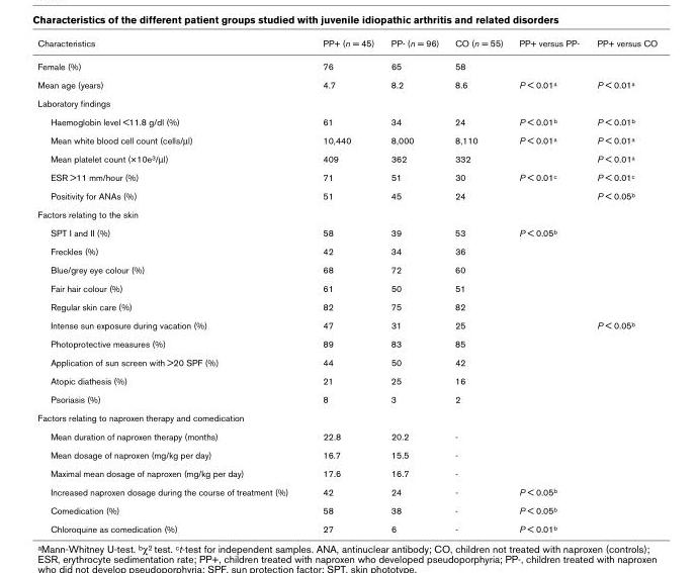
<table><thead><tr><td>Characteristics</td><td>PP+ (n = 45)</td><td>PP- (n = 96)</td><td>CO (n = 55)</td><td>PP+ versus PP-</td><td>PP+ versus CO</td></tr></thead><tbody><tr><td>Female (%)</td><td>76</td><td>65</td><td>58</td><td></td><td></td></tr><tr><td>Mean age (years)</td><td>4.7</td><td>8.2</td><td>8.6</td><td>P &lt; 0.01a</td><td>P &lt; 0.01a</td></tr><tr><td colspan="6">Laboratory findings</td></tr><tr><td>Haemoglobin level &lt;11.8 g/dl (%)</td><td>61</td><td>34</td><td>24</td><td>P &lt; 0.01b</td><td>P &lt; 0.01b</td></tr><tr><td>Mean white blood cell count (cells/μl)</td><td>10,440</td><td>8,000</td><td>8,110</td><td>P &lt; 0.01a</td><td>P &lt; 0.01a</td></tr><tr><td>Mean platelet count (×10e3/μl)</td><td>409</td><td>362</td><td>332</td><td></td><td>P &lt; 0.01a</td></tr><tr><td>ESR &gt;11 mm/hour (%)</td><td>71</td><td>51</td><td>30</td><td>P &lt; 0.01c</td><td>P &lt; 0.01c</td></tr><tr><td>Positivity for ANAs (%)</td><td>51</td><td>45</td><td>24</td><td></td><td>P &lt; 0.05b</td></tr><tr><td colspan="6">Factors relating to the skin</td></tr><tr><td>SPT I and II (%)</td><td>58</td><td>39</td><td>53</td><td>P &lt; 0.05b</td><td></td></tr><tr><td>Freckles (%)</td><td>42</td><td>34</td><td>36</td><td></td><td></td></tr><tr><td>Blue/grey eye colour (%)</td><td>68</td><td>72</td><td>60</td><td></td><td></td></tr><tr><td>Fair hair colour (%)</td><td>61</td><td>50</td><td>51</td><td></td><td></td></tr><tr><td>Regular skin care (%)</td><td>82</td><td>75</td><td>82</td><td></td><td></td></tr><tr><td>Intense sun exposure during vacation (%)</td><td>47</td><td>31</td><td>25</td><td></td><td>P &lt; 0.05b</td></tr><tr><td>Photoprotective measures (%)</td><td>89</td><td>83</td><td>85</td><td></td><td></td></tr><tr><td>Application of sun screen with &gt;20 SPF (%)</td><td>44</td><td>50</td><td>42</td><td></td><td></td></tr><tr><td>Atopic diathesis (%)</td><td>21</td><td>25</td><td>16</td><td></td><td></td></tr><tr><td>Psoriasis (%)</td><td>8</td><td>3</td><td>2</td><td></td><td></td></tr><tr><td colspan="6">Factors relating to naproxen therapy and comedication</td></tr><tr><td>Mean duration of naproxen therapy (months)</td><td>22.8</td><td>20.2</td><td>-</td><td></td><td></td></tr><tr><td>Mean dosage of naproxen (mg/kg per day)</td><td>16.7</td><td>15.5</td><td>-</td><td></td><td></td></tr><tr><td>Maximal mean dosage of naproxen (mg/kg per day)</td><td>17.6</td><td>16.7</td><td>-</td><td></td><td></td></tr><tr><td>Increased naproxen dosage during the course of treatment (%)</td><td>42</td><td>24</td><td>-</td><td>P &lt; 0.05b</td><td></td></tr><tr><td>Comedication (%)</td><td>58</td><td>38</td><td>-</td><td>P &lt; 0.05b</td><td></td></tr><tr><td>Chloroquine as comedication (%)</td><td>27</td><td>6</td><td>-</td><td>P &lt; 0.01b</td><td></td></tr></tbody></table>